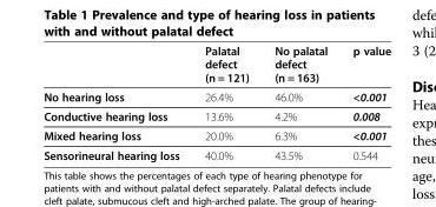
<table><thead><tr><td></td><td>Palatal defect (n = 121)</td><td>No palatal defect (n = 163)</td><td>p value</td></tr></thead><tbody><tr><td>No hearing loss</td><td>26.4%</td><td>46.0%</td><td>&lt;0.001</td></tr><tr><td>Conductive hearing loss</td><td>13.6%</td><td>4.2%</td><td>0.008</td></tr><tr><td>Mixed hearing loss</td><td>20.0%</td><td>6.3%</td><td>&lt;0.001</td></tr><tr><td>Sensorineural hearing loss</td><td>40.0%</td><td>43.5%</td><td>0.544</td></tr></tbody></table>